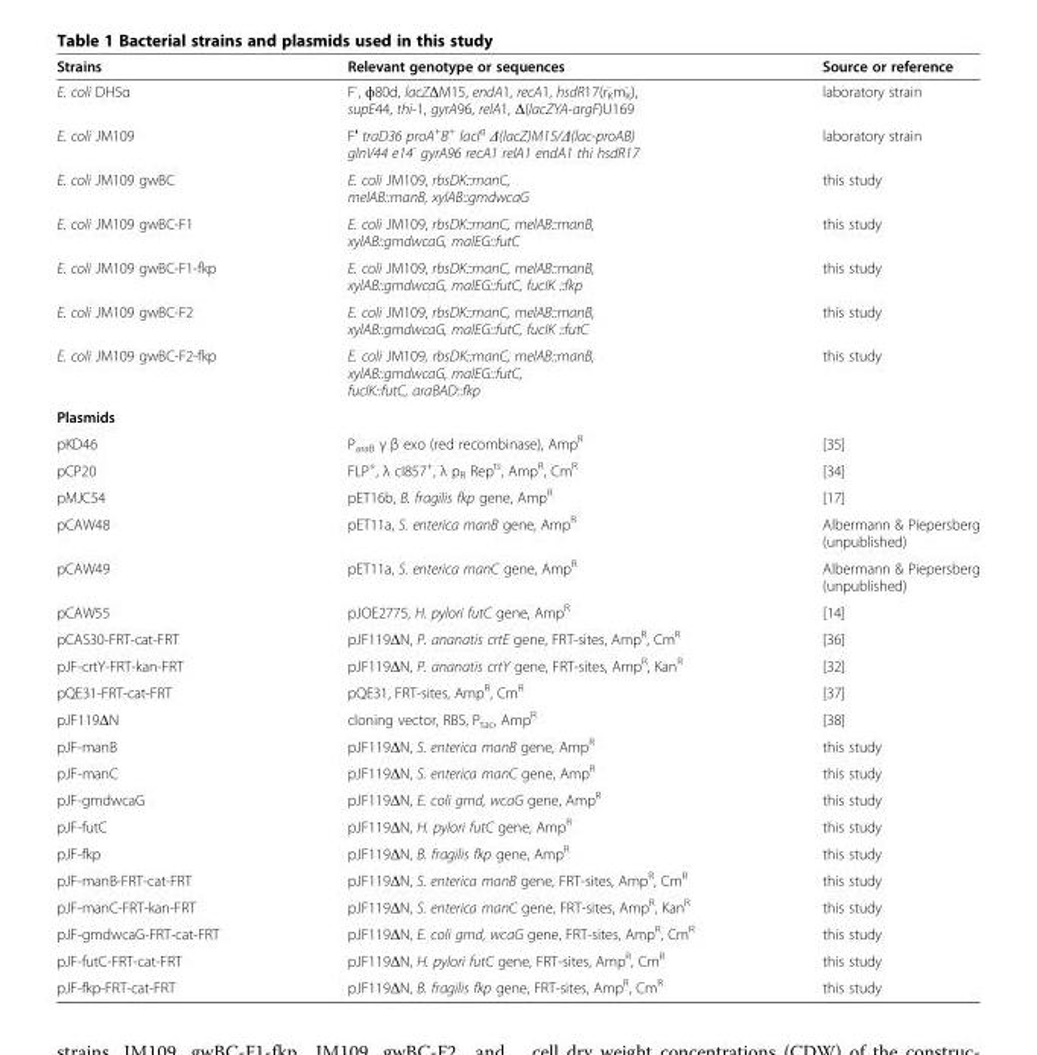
<table><thead><tr><td>Strains</td><td>Relevant genotype or sequences</td><td>Source or reference</td></tr></thead><tbody><tr><td>E. coli DH5α</td><td>F<sup>-</sup>, ϕ80d, lacZΔM15, endA1, recA1, hsdR17(r<sub>K</sub> <sup>-</sup> m<sub>K</sub> <sup>-</sup> ), supE44, thi-1, gyrA96, relA1, Δ(lacZYA-argF)U169</td><td>laboratory strain</td></tr><tr><td>E. coli JM109</td><td>F′ traD36 proA<sup>+</sup>B<sup>+</sup> lacI<sup>q</sup> Δ(lacZ)M15/Δ(lac-proAB) glnV44 e14<sup>-</sup> gyrA96 recA1 relA1 endA1 thi hsdR17</td><td>laboratory strain</td></tr><tr><td>E. coli JM109 gwBC</td><td>E. coli JM109, rbsDK::manC, melAB::manB, xylAB::gmdwcaG</td><td>this study</td></tr><tr><td>E. coli JM109 gwBC-F1</td><td>E. coli JM109, rbsDK::manC, melAB::manB, xylAB::gmdwcaG, malEG::futC</td><td>this study</td></tr><tr><td>E. coli JM109 gwBC-F1-fkp</td><td>E. coli JM109, rbsDK::manC, melAB::manB, xylAB::gmdwcaG, malEG::futC, fucIK ::fkp</td><td>this study</td></tr><tr><td>E. coli JM109 gwBC-F2</td><td>E. coli JM109, rbsDK::manC, melAB::manB, xylAB::gmdwcaG, malEG::futC, fucIK ::futC</td><td>this study</td></tr><tr><td>E. coli JM109 gwBC-F2-fkp</td><td>E. coli JM109, rbsDK::manC, melAB::manB, xylAB::gmdwcaG, malEG::futC, fucIK::futC, araBAD::fkp</td><td>this study</td></tr><tr><td colspan="3">Plasmids</td></tr><tr><td>pKD46</td><td>P<sub>araB</sub> γ β exo (red recombinase), Amp<sup>R</sup></td><td>[35]</td></tr><tr><td>pCP20</td><td>FLP<sup>+</sup>, λ cI857<sup>+</sup>, λ p<sub>R</sub> Rep<sup>ts</sup>, Amp<sup>R</sup>, Cm<sup>R</sup></td><td>[34]</td></tr><tr><td>pMJC54</td><td>pET16b, B. fragilis fkp gene, Amp<sup>R</sup></td><td>[17]</td></tr><tr><td>pCAW48</td><td>pET11a, S. enterica manB gene, Amp<sup>R</sup></td><td>Albermann &amp; Piepersberg (unpublished)</td></tr><tr><td>pCAW49</td><td>pET11a, S. enterica manC gene, Amp<sup>R</sup></td><td>Albermann &amp; Piepersberg (unpublished)</td></tr><tr><td>pCAW55</td><td>pJOE2775, H. pylori futC gene, Amp<sup>R</sup></td><td>[14]</td></tr><tr><td>pCAS30-FRT-cat-FRT</td><td>pJF119ΔN, P. ananatis crtE gene, FRT-sites, Amp<sup>R</sup>, Cm<sup>R</sup></td><td>[36]</td></tr><tr><td>pJF-crtY-FRT-kan-FRT</td><td>pJF119ΔN, P. ananatis crtY gene, FRT-sites, Amp<sup>R</sup>, Kan<sup>R</sup></td><td>[32]</td></tr><tr><td>pQE31-FRT-cat-FRT</td><td>pQE31, FRT-sites, Amp<sup>R</sup>, Cm<sup>R</sup></td><td>[37]</td></tr><tr><td>pJF119ΔN</td><td>cloning vector, RBS, P<sub>tac</sub>, Amp<sup>R</sup></td><td>[38]</td></tr><tr><td>pJF-manB</td><td>pJF119ΔN, S. enterica manB gene, Amp<sup>R</sup></td><td>this study</td></tr><tr><td>pJF-manC</td><td>pJF119ΔN, S. enterica manC gene, Amp<sup>R</sup></td><td>this study</td></tr><tr><td>pJF-gmdwcaG</td><td>pJF119ΔN, E. coli gmd, wcaG gene, Amp<sup>R</sup></td><td>this study</td></tr><tr><td>pJF-futC</td><td>pJF119ΔN, H. pylori futC gene, Amp<sup>R</sup></td><td>this study</td></tr><tr><td>pJF-fkp</td><td>pJF119ΔN, B. fragilis fkp gene, Amp<sup>R</sup></td><td>this study</td></tr><tr><td>pJF-manB-FRT-cat-FRT</td><td>pJF119ΔN, S. enterica manB gene, FRT-sites, Amp<sup>R</sup>, Cm<sup>R</sup></td><td>this study</td></tr><tr><td>pJF-manC-FRT-kan-FRT</td><td>pJF119ΔN, S. enterica manC gene, FRT-sites, Amp<sup>R</sup>, Kan<sup>R</sup></td><td>this study</td></tr><tr><td>pJF-gmdwcaG-FRT-cat-FRT</td><td>pJF119ΔN, E. coli gmd, wcaG gene, FRT-sites, Amp<sup>R</sup>, Cm<sup>R</sup></td><td>this study</td></tr><tr><td>pJF-futC-FRT-cat-FRT</td><td>pJF119ΔN, H. pylori futC gene, FRT-sites, Amp<sup>R</sup>, Cm<sup>R</sup></td><td>this study</td></tr><tr><td>pJF-fkp-FRT-cat-FRT</td><td>pJF119ΔN, B. fragilis fkp gene, FRT-sites, Amp<sup>R</sup>, Cm<sup>R</sup></td><td>this study</td></tr></tbody></table>